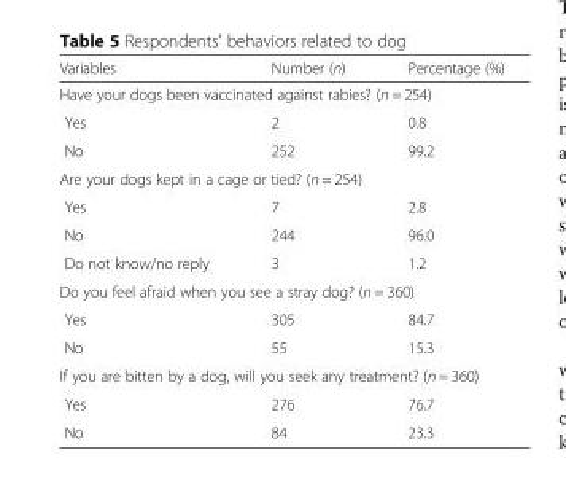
<table><thead><tr><td>Variables</td><td>Number (n)</td><td>Percentage (%)</td></tr></thead><tbody><tr><td colspan="3">Have your dogs been vaccinated against rabies? (n = 254)</td></tr><tr><td>Yes</td><td>2</td><td>0.8</td></tr><tr><td>No</td><td>252</td><td>99.2</td></tr><tr><td colspan="3">Are your dogs kept in a cage or tied? (n = 254)</td></tr><tr><td>Yes</td><td>7</td><td>2.8</td></tr><tr><td>No</td><td>244</td><td>96.0</td></tr><tr><td>Do not know/no reply</td><td>3</td><td>1.2</td></tr><tr><td colspan="3">Do you feel afraid when you see a stray dog? (n = 360)</td></tr><tr><td>Yes</td><td>305</td><td>84.7</td></tr><tr><td>No</td><td>55</td><td>15.3</td></tr><tr><td colspan="3">If you are bitten by a dog, will you seek any treatment? (n = 360)</td></tr><tr><td>Yes</td><td>276</td><td>76.7</td></tr><tr><td>No</td><td>84</td><td>23.3</td></tr></tbody></table>